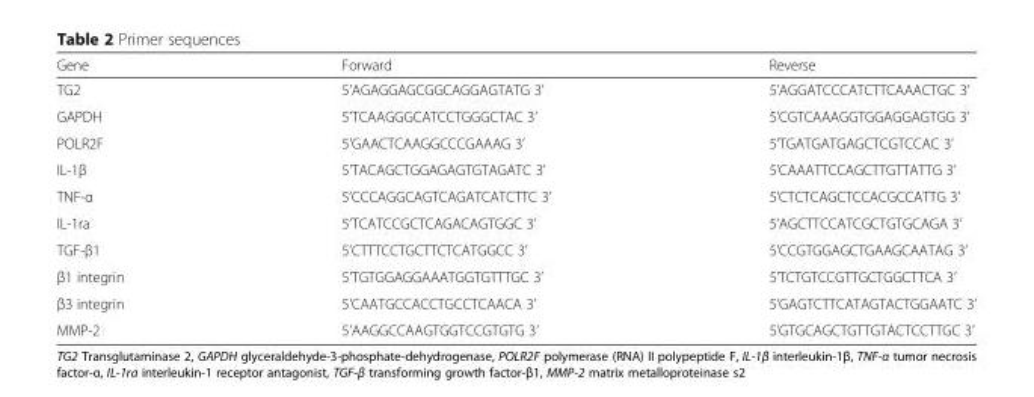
<table><thead><tr><td>Gene</td><td>Forward</td><td>Reverse</td></tr></thead><tbody><tr><td>TG2</td><td>5’AGAGGAGCGGCAGGAGTATG 3’</td><td>5’AGGATCCCATCTTCAAACTGC 3’</td></tr><tr><td>GAPDH</td><td>5’TCAAGGGCATCCTGGGCTAC 3’</td><td>5’CGTCAAAGGTGGAGGAGTGG 3’</td></tr><tr><td>POLR2F</td><td>5’GAACTCAAGGCCCGAAAG 3’</td><td>5’TGATGATGAGCTCGTCCAC 3’</td></tr><tr><td>IL-1β</td><td>5’TACAGCTGGAGAGTGTAGATC 3’</td><td>5’CAAATTCCAGCTTGTTATTG 3’</td></tr><tr><td>TNF-α</td><td>5’CCCAGGCAGTCAGATCATCTTC 3’</td><td>5’CTCTCAGCTCCACGCCATTG 3’</td></tr><tr><td>IL-1ra</td><td>5’TCATCCGCTCAGACAGTGGC 3’</td><td>5’AGCTTCCATCGCTGTGCAGA 3’</td></tr><tr><td>TGF-β1</td><td>5’CTTTCCTGCTTCTCATGGCC 3’</td><td>5’CCGTGGAGCTGAAGCAATAG 3’</td></tr><tr><td>β1 integrin</td><td>5’TGTGGAGGAAATGGTGTTTGC 3’</td><td>5’TCTGTCCGTTGCTGGCTTCA 3’</td></tr><tr><td>β3 integrin</td><td>5’CAATGCCACCTGCCTCAACA 3’</td><td>5’GAGTCTTCATAGTACTGGAATC 3’</td></tr><tr><td>MMP-2</td><td>5’AAGGCCAAGTGGTCCGTGTG 3’</td><td>5’GTGCAGCTGTTGTACTCCTTGC 3’</td></tr></tbody></table>